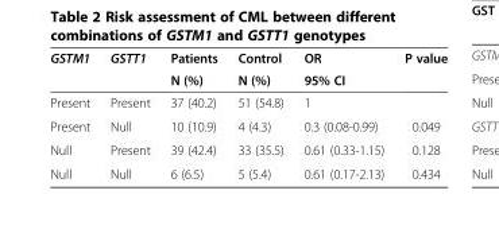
<table><thead><tr><td rowspan="2">GSTM1</td><td rowspan="2">GSTT1</td><td rowspan="2">Patients N (%)</td><td rowspan="2">Control N (%)</td><td rowspan="2">OR 95% CI</td><td rowspan="2">P value</td></tr><tr></tr></thead><tbody><tr><td>Present</td><td>Present</td><td>37 (40.2)</td><td>51 (54.8)</td><td>1</td><td></td></tr><tr><td>Present</td><td>Null</td><td>10 (10.9)</td><td>4 (4.3)</td><td>0.3 (0.08-0.99)</td><td>0.049</td></tr><tr><td>Null</td><td>Present</td><td>39 (42.4)</td><td>33 (35.5)</td><td>0.61 (0.33-1.15)</td><td>0.128</td></tr><tr><td>Null</td><td>Null</td><td>6 (6.5)</td><td>5 (5.4)</td><td>0.61 (0.17-2.13)</td><td>0.434</td></tr></tbody></table>